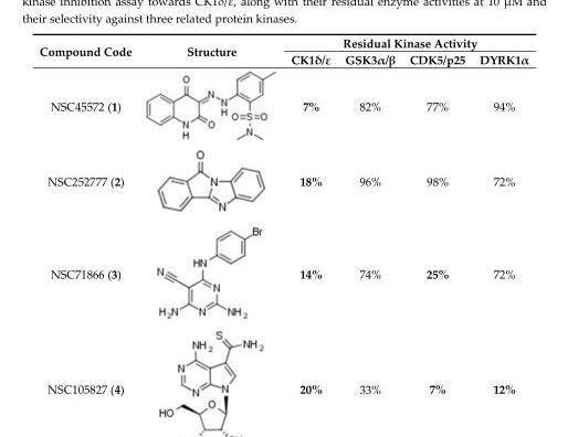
<table><thead><tr><td rowspan="2">Compound Code</td><td rowspan="2">Structure</td><td colspan="4">Residual Kinase Activity</td></tr><tr><td>CK1δ/ε</td><td>GSK3α/β</td><td>CDK5/p25</td><td>DYRK1α</td></tr></thead><tbody><tr><td>NSC45572 (1)</td><td></td><td>7%</td><td>82%</td><td>77%</td><td>94%</td></tr><tr><td>NSC252777 (2)</td><td></td><td>18%</td><td>96%</td><td>98%</td><td>72%</td></tr><tr><td>NSC71866 (3)</td><td></td><td>14%</td><td>74%</td><td>25%</td><td>72%</td></tr><tr><td>NSC105827 (4)</td><td></td><td>20%</td><td>33%</td><td>7%</td><td>12%</td></tr></tbody></table>